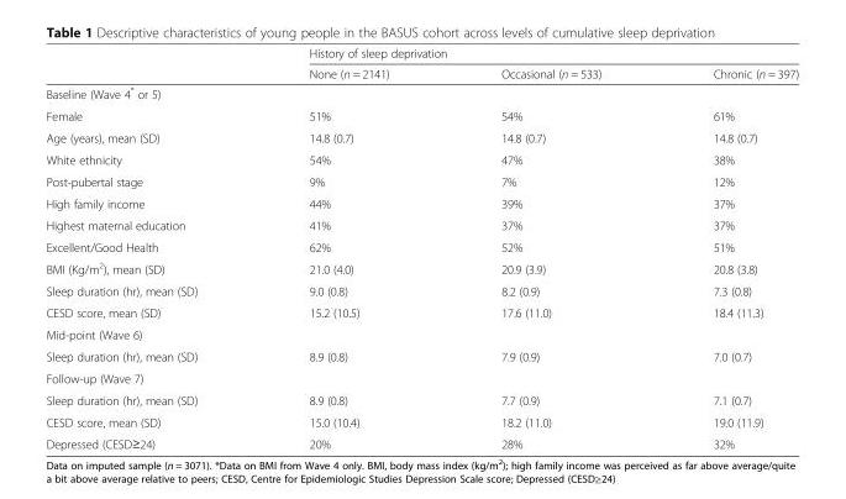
<table><thead><tr><td rowspan="2"></td><td colspan="3">History of sleep deprivation</td></tr><tr><td>None (n = 2141)</td><td>Occasional (n = 533)</td><td>Chronic (n = 397)</td></tr></thead><tbody><tr><td colspan="4">Baseline (Wave 4* or 5)</td></tr><tr><td>Female</td><td>51%</td><td>54%</td><td>61%</td></tr><tr><td>Age (years), mean (SD)</td><td>14.8 (0.7)</td><td>14.8 (0.7)</td><td>14.8 (0.7)</td></tr><tr><td>White ethnicity</td><td>54%</td><td>47%</td><td>38%</td></tr><tr><td>Post-pubertal stage</td><td>9%</td><td>7%</td><td>12%</td></tr><tr><td>High family income</td><td>44%</td><td>39%</td><td>37%</td></tr><tr><td>Highest maternal education</td><td>41%</td><td>37%</td><td>37%</td></tr><tr><td>Excellent/Good Health</td><td>62%</td><td>52%</td><td>51%</td></tr><tr><td>BMI (Kg/m<sup>2</sup>), mean (SD)</td><td>21.0 (4.0)</td><td>20.9 (3.9)</td><td>20.8 (3.8)</td></tr><tr><td>Sleep duration (hr), mean (SD)</td><td>9.0 (0.8)</td><td>8.2 (0.9)</td><td>7.3 (0.8)</td></tr><tr><td>CESD score, mean (SD)</td><td>15.2 (10.5)</td><td>17.6 (11.0)</td><td>18.4 (11.3)</td></tr><tr><td colspan="4">Mid-point (Wave 6)</td></tr><tr><td>Sleep duration (hr), mean (SD)</td><td>8.9 (0.8)</td><td>7.9 (0.9)</td><td>7.0 (0.7)</td></tr><tr><td colspan="4">Follow-up (Wave 7)</td></tr><tr><td>Sleep duration (hr), mean (SD)</td><td>8.9 (0.8)</td><td>7.7 (0.9)</td><td>7.1 (0.7)</td></tr><tr><td>CESD score, mean (SD)</td><td>15.0 (10.4)</td><td>18.2 (11.0)</td><td>19.0 (11.9)</td></tr><tr><td>Depressed (CESD≥24)</td><td>20%</td><td>28%</td><td>32%</td></tr></tbody></table>